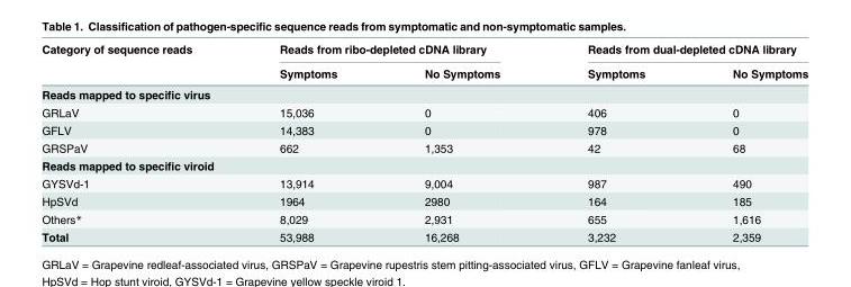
<table><thead><tr><td rowspan="2">Category of sequence reads</td><td colspan="2">Reads from ribo-depleted cDNA library</td><td colspan="2">Reads from dual-depleted cDNA library</td></tr><tr><td>Symptoms</td><td>No Symptoms</td><td>Symptoms</td><td>No Symptoms</td></tr></thead><tbody><tr><td colspan="5">Reads mapped to specific virus</td></tr><tr><td>GRLaV</td><td>15,036</td><td>0</td><td>406</td><td>0</td></tr><tr><td>GFLV</td><td>14,383</td><td>0</td><td>978</td><td>0</td></tr><tr><td>GRSPaV</td><td>662</td><td>1,353</td><td>42</td><td>68</td></tr><tr><td colspan="5">Reads mapped to specific viroid</td></tr><tr><td>GYSVd-1</td><td>13,914</td><td>9,004</td><td>987</td><td>490</td></tr><tr><td>HpSVd</td><td>1964</td><td>2980</td><td>164</td><td>185</td></tr><tr><td>Others*</td><td>8,029</td><td>2,931</td><td>655</td><td>1,616</td></tr><tr><td>Total</td><td>53,988</td><td>16,268</td><td>3,232</td><td>2,359</td></tr></tbody></table>